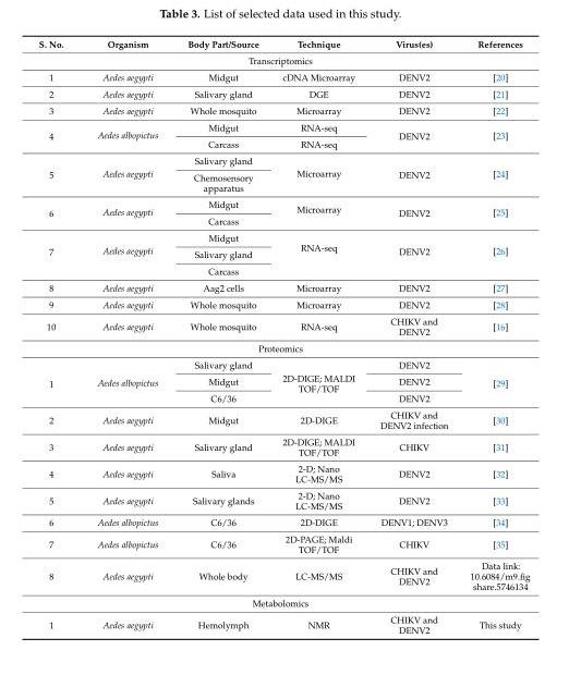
<table><thead><tr><td>S. No.</td><td>Organism</td><td>Body Part/Source</td><td>Technique</td><td>Virus(es)</td><td>References</td></tr></thead><tbody><tr><td colspan="6">Transcriptomics</td></tr><tr><td>1</td><td>Aedes aegypti</td><td>Midgut</td><td>cDNA Microarray</td><td>DENV2</td><td>[20]</td></tr><tr><td>2</td><td>Aedes aegypti</td><td>Salivary gland</td><td>DGE</td><td>DENV2</td><td>[21]</td></tr><tr><td>3</td><td>Aedes aegypti</td><td>Whole mosquito</td><td>Microarray</td><td>DENV2</td><td>[22]</td></tr><tr><td rowspan="2">4</td><td rowspan="2">Aedes albopictus</td><td>Midgut</td><td>RNA-seq</td><td rowspan="2">DENV2</td><td rowspan="2">[23]</td></tr><tr><td>Carcass</td><td>RNA-seq</td></tr><tr><td rowspan="2">5</td><td rowspan="2">Aedes aegypti</td><td>Salivary gland</td><td rowspan="2">Microarray</td><td rowspan="2">DENV2</td><td rowspan="2">[24]</td></tr><tr><td>Chemosensory apparatus</td></tr><tr><td rowspan="2">6</td><td rowspan="2">Aedes aegypti</td><td>Midgut</td><td rowspan="2">Microarray</td><td rowspan="2">DENV2</td><td rowspan="2">[25]</td></tr><tr><td>Carcass</td></tr><tr><td rowspan="3">7</td><td rowspan="3">Aedes aegypti</td><td>Midgut</td><td rowspan="3">RNA-seq</td><td rowspan="3">DENV2</td><td rowspan="3">[26]</td></tr><tr><td>Salivary gland</td></tr><tr><td>Carcass</td></tr><tr><td>8</td><td>Aedes aegypti</td><td>Aag2 cells</td><td>Microarray</td><td>DENV2</td><td>[27]</td></tr><tr><td>9</td><td>Aedes aegypti</td><td>Whole mosquito</td><td>Microarray</td><td>DENV2</td><td>[28]</td></tr><tr><td>10</td><td>Aedes aegypti</td><td>Whole mosquito</td><td>RNA-seq</td><td>CHIKV and DENV2</td><td>[16]</td></tr><tr><td colspan="6">Proteomics</td></tr><tr><td rowspan="3">1</td><td rowspan="3">Aedes albopictus</td><td>Salivary gland</td><td rowspan="3">2D-DIGE; MALDI TOF/TOF</td><td>DENV2</td><td rowspan="3">[29]</td></tr><tr><td>Midgut</td><td>DENV2</td></tr><tr><td>C6/36</td><td>DENV2</td></tr><tr><td>2</td><td>Aedes aegypti</td><td>Midgut</td><td>2D-DIGE</td><td>CHIKV and DENV2 infection</td><td>[30]</td></tr><tr><td>3</td><td>Aedes aegypti</td><td>Salivary gland</td><td>2D-DIGE; MALDI TOF/TOF</td><td>CHIKV</td><td>[31]</td></tr><tr><td>4</td><td>Aedes aegypti</td><td>Saliva</td><td>2-D; Nano LC-MS/MS</td><td>DENV2</td><td>[32]</td></tr><tr><td>5</td><td>Aedes aegypti</td><td>Salivary glands</td><td>2-D; Nano LC-MS/MS</td><td>DENV2</td><td>[33]</td></tr><tr><td>6</td><td>Aedes albopictus</td><td>C6/36</td><td>2D-DIGE</td><td>DENV1; DENV3</td><td>[34]</td></tr><tr><td>7</td><td>Aedes albopictus</td><td>C6/36</td><td>2D-PAGE; Maldi TOF/TOF</td><td>CHIKV</td><td>[35]</td></tr><tr><td>8</td><td>Aedes aegypti</td><td>Whole body</td><td>LC-MS/MS</td><td>CHIKV and DENV2</td><td>Data link: 10.6084/m9.fig share.5746134</td></tr><tr><td colspan="6">Metabolomics</td></tr><tr><td>1</td><td>Aedes aegypti</td><td>Hemolymph</td><td>NMR</td><td>CHIKV and DENV2</td><td>This study</td></tr></tbody></table>